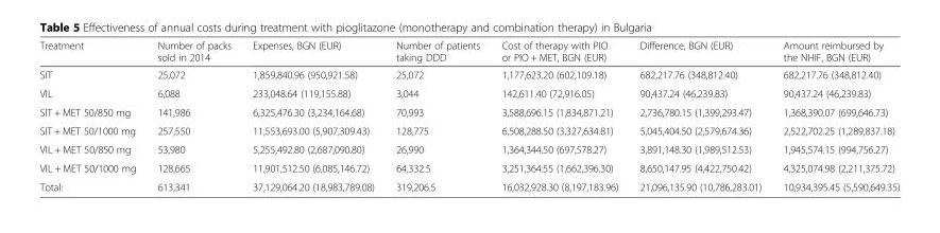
<table><thead><tr><td>Treatment</td><td>Number of packs sold in 2014</td><td>Expenses, BGN (EUR)</td><td>Number of patients taking DDD</td><td>Cost of therapy with PIO or PIO + MET, BGN (EUR)</td><td>Difference, BGN (EUR)</td><td>Amount reimbursed by the NHIF, BGN (EUR)</td></tr></thead><tbody><tr><td>SIT</td><td>25,072</td><td>1,859,840.96 (950,921.58)</td><td>25,072</td><td>1,177,623.20 (602,109.18)</td><td>682,217.76 (348,812.40)</td><td>682,217.76 (348,812.40)</td></tr><tr><td>VIL</td><td>6,088</td><td>233,048.64 (119,155.88)</td><td>3,044</td><td>142,611.40 (72,916.05)</td><td>90,437.24 (46,239.83)</td><td>90,437.24 (46,239.83)</td></tr><tr><td>SIT + MET 50/850 mg</td><td>141,986</td><td>6,325,476.30 (3,234,164.68)</td><td>70,993</td><td>3,588,696.15 (1,834,871.21)</td><td>2,736,780.15 (1,399,293.47)</td><td>1,368,390.07 (699,646.73)</td></tr><tr><td>SIT + MET 50/1000 mg</td><td>257,550</td><td>11,553,693.00 (5,907,309.43)</td><td>128,775</td><td>6,508,288.50 (3,327,634.81)</td><td>5,045,404.50 (2,579,674.36)</td><td>2,522,702.25 (1,289,837.18)</td></tr><tr><td>VIL + MET 50/850 mg</td><td>53,980</td><td>5,255,492.80 (2,687,090.80)</td><td>26,990</td><td>1,364,344.50 (697,578.27)</td><td>3,891,148.30 (1,989,512.53)</td><td>1,945,574.15 (994,756.27)</td></tr><tr><td>VIL + MET 50/1000 mg</td><td>128,665</td><td>11,901,512.50 (6,085,146.72)</td><td>64,332.5</td><td>3,251,364.55 (1,662,396.30)</td><td>8,650,147.95 (4,422,750.42)</td><td>4,325,074.98 (2,211,375.72)</td></tr><tr><td>Total:</td><td>613,341</td><td>37,129,064.20 (18,983,789.08)</td><td>319,206.5</td><td>16,032,928.30 (8,197,183.96)</td><td>21,096,135.90 (10,786,283.01)</td><td>10,934,395.45 (5,590,649.35)</td></tr></tbody></table>